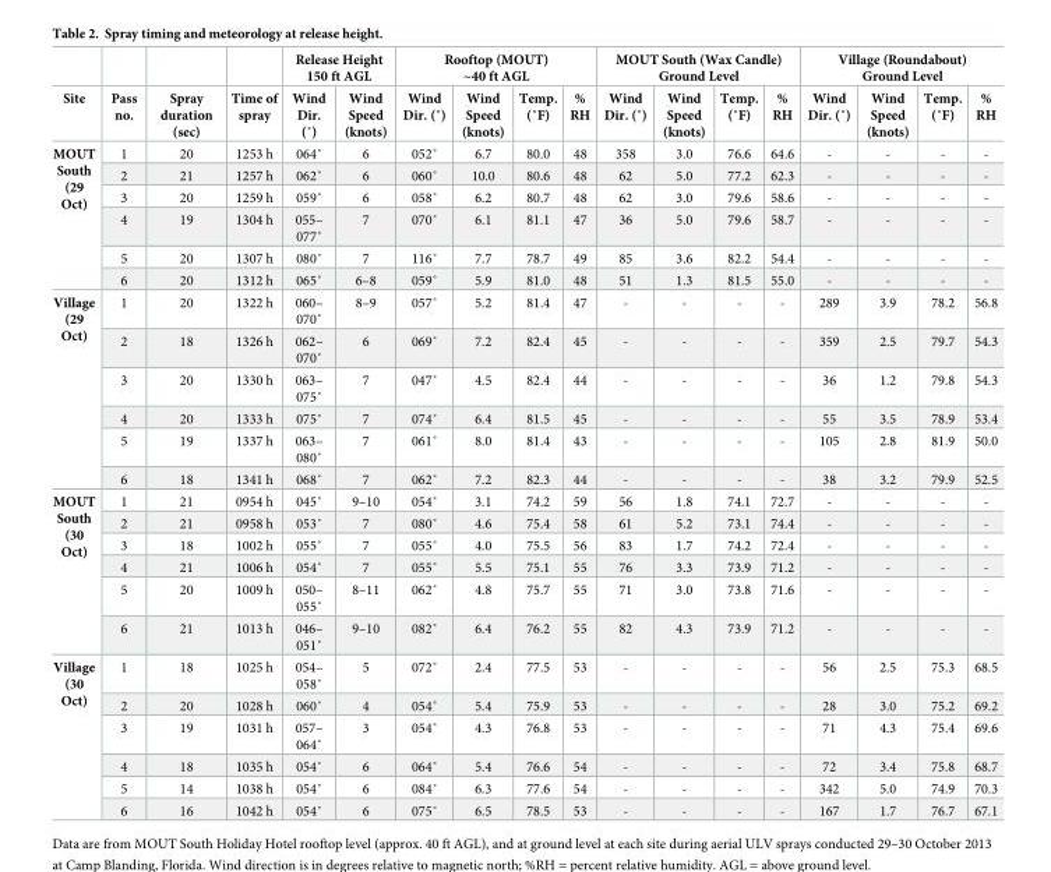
<table><thead><tr><td rowspan="2">Site</td><td rowspan="2">Pass no.</td><td rowspan="2">Spray duration (sec)</td><td rowspan="2">Time of spray</td><td colspan="2">Release Height 150 ft AGL</td><td colspan="4">Rooftop (MOUT) ~40 ft AGL</td><td colspan="4">MOUT South (Wax Candle) Ground Level</td><td colspan="4">Village (Roundabout) Ground Level</td></tr><tr><td>Wind Dir. (˚)</td><td>Wind Speed (knots)</td><td>Wind Dir. (˚)</td><td>Wind Speed (knots)</td><td>Temp. (˚F)</td><td>% RH</td><td>Wind Dir. (˚)</td><td>Wind Speed (knots)</td><td>Temp. (˚F)</td><td>% RH</td><td>Wind Dir. (˚)</td><td>Wind Speed (knots)</td><td>Temp. (˚F)</td><td>% RH</td></tr></thead><tbody><tr><td rowspan="6">MOUT South (29 Oct)</td><td>1</td><td>20</td><td>1253 h</td><td>064˚</td><td>6</td><td>052˚</td><td>6.7</td><td>80.0</td><td>48</td><td>358</td><td>3.0</td><td>76.6</td><td>64.6</td><td>-</td><td>-</td><td>-</td><td>-</td></tr><tr><td>2</td><td>21</td><td>1257 h</td><td>062˚</td><td>6</td><td>060˚</td><td>10.0</td><td>80.6</td><td>48</td><td>62</td><td>5.0</td><td>77.2</td><td>62.3</td><td>-</td><td>-</td><td>-</td><td>-</td></tr><tr><td>3</td><td>20</td><td>1259 h</td><td>059˚</td><td>6</td><td>058˚</td><td>6.2</td><td>80.7</td><td>48</td><td>62</td><td>3.0</td><td>79.6</td><td>58.6</td><td>-</td><td>-</td><td>-</td><td>-</td></tr><tr><td>4</td><td>19</td><td>1304 h</td><td>055– 077˚</td><td>7</td><td>070˚</td><td>6.1</td><td>81.1</td><td>47</td><td>36</td><td>5.0</td><td>79.6</td><td>58.7</td><td>-</td><td>-</td><td>-</td><td>-</td></tr><tr><td>5</td><td>20</td><td>1307 h</td><td>080˚</td><td>7</td><td>116˚</td><td>7.7</td><td>78.7</td><td>49</td><td>85</td><td>3.6</td><td>82.2</td><td>54.4</td><td>-</td><td>-</td><td>-</td><td>-</td></tr><tr><td>6</td><td>20</td><td>1312 h</td><td>065˚</td><td>6–8</td><td>059˚</td><td>5.9</td><td>81.0</td><td>48</td><td>51</td><td>1.3</td><td>81.5</td><td>55.0</td><td>-</td><td>-</td><td>-</td><td>-</td></tr><tr><td rowspan="6">Village (29 Oct)</td><td>1</td><td>20</td><td>1322 h</td><td>060– 070˚</td><td>8–9</td><td>057˚</td><td>5.2</td><td>81.4</td><td>47</td><td>-</td><td>-</td><td>-</td><td>-</td><td>289</td><td>3.9</td><td>78.2</td><td>56.8</td></tr><tr><td>2</td><td>18</td><td>1326 h</td><td>062– 070˚</td><td>6</td><td>069˚</td><td>7.2</td><td>82.4</td><td>45</td><td>-</td><td>-</td><td>-</td><td>-</td><td>359</td><td>2.5</td><td>79.7</td><td>54.3</td></tr><tr><td>3</td><td>20</td><td>1330 h</td><td>063– 075˚</td><td>7</td><td>047˚</td><td>4.5</td><td>82.4</td><td>44</td><td>-</td><td>-</td><td>-</td><td>-</td><td>36</td><td>1.2</td><td>79.8</td><td>54.3</td></tr><tr><td>4</td><td>20</td><td>1333 h</td><td>075˚</td><td>7</td><td>074˚</td><td>6.4</td><td>81.5</td><td>45</td><td>-</td><td>-</td><td>-</td><td>-</td><td>55</td><td>3.5</td><td>78.9</td><td>53.4</td></tr><tr><td>5</td><td>19</td><td>1337 h</td><td>063– 080˚</td><td>7</td><td>061˚</td><td>8.0</td><td>81.4</td><td>43</td><td>-</td><td>-</td><td>-</td><td>-</td><td>105</td><td>2.8</td><td>81.9</td><td>50.0</td></tr><tr><td>6</td><td>18</td><td>1341 h</td><td>068˚</td><td>7</td><td>062˚</td><td>7.2</td><td>82.3</td><td>44</td><td>-</td><td>-</td><td>-</td><td>-</td><td>38</td><td>3.2</td><td>79.9</td><td>52.5</td></tr><tr><td rowspan="6">MOUT South (30 Oct)</td><td>1</td><td>21</td><td>0954 h</td><td>045˚</td><td>9–10</td><td>054˚</td><td>3.1</td><td>74.2</td><td>59</td><td>56</td><td>1.8</td><td>74.1</td><td>72.7</td><td>-</td><td>-</td><td>-</td><td>-</td></tr><tr><td>2</td><td>21</td><td>0958 h</td><td>053˚</td><td>7</td><td>080˚</td><td>4.6</td><td>75.4</td><td>58</td><td>61</td><td>5.2</td><td>73.1</td><td>74.4</td><td>-</td><td>-</td><td>-</td><td>-</td></tr><tr><td>3</td><td>18</td><td>1002 h</td><td>055˚</td><td>7</td><td>055˚</td><td>4.0</td><td>75.5</td><td>56</td><td>83</td><td>1.7</td><td>74.2</td><td>72.4</td><td>-</td><td>-</td><td>-</td><td>-</td></tr><tr><td>4</td><td>21</td><td>1006 h</td><td>054˚</td><td>7</td><td>055˚</td><td>5.5</td><td>75.1</td><td>55</td><td>76</td><td>3.3</td><td>73.9</td><td>71.2</td><td>-</td><td>-</td><td>-</td><td>-</td></tr><tr><td>5</td><td>20</td><td>1009 h</td><td>050– 055˚</td><td>8–11</td><td>062˚</td><td>4.8</td><td>75.7</td><td>55</td><td>71</td><td>3.0</td><td>73.8</td><td>71.6</td><td>-</td><td>-</td><td>-</td><td>-</td></tr><tr><td>6</td><td>21</td><td>1013 h</td><td>046– 051˚</td><td>9–10</td><td>082˚</td><td>6.4</td><td>76.2</td><td>55</td><td>82</td><td>4.3</td><td>73.9</td><td>71.2</td><td>-</td><td>-</td><td>-</td><td>-</td></tr><tr><td rowspan="6">Village (30 Oct)</td><td>1</td><td>18</td><td>1025 h</td><td>054– 058˚</td><td>5</td><td>072˚</td><td>2.4</td><td>77.5</td><td>53</td><td>-</td><td>-</td><td>-</td><td>-</td><td>56</td><td>2.5</td><td>75.3</td><td>68.5</td></tr><tr><td>2</td><td>20</td><td>1028 h</td><td>060˚</td><td>4</td><td>054˚</td><td>5.4</td><td>75.9</td><td>53</td><td>-</td><td>-</td><td>-</td><td>-</td><td>28</td><td>3.0</td><td>75.2</td><td>69.2</td></tr><tr><td>3</td><td>19</td><td>1031 h</td><td>057– 064˚</td><td>3</td><td>054˚</td><td>4.3</td><td>76.8</td><td>53</td><td>-</td><td>-</td><td>-</td><td>-</td><td>71</td><td>4.3</td><td>75.4</td><td>69.6</td></tr><tr><td>4</td><td>18</td><td>1035 h</td><td>054˚</td><td>6</td><td>064˚</td><td>5.4</td><td>76.6</td><td>54</td><td>-</td><td>-</td><td>-</td><td>-</td><td>72</td><td>3.4</td><td>75.8</td><td>68.7</td></tr><tr><td>5</td><td>14</td><td>1038 h</td><td>054˚</td><td>6</td><td>084˚</td><td>6.3</td><td>77.6</td><td>54</td><td>-</td><td>-</td><td>-</td><td>-</td><td>342</td><td>5.0</td><td>74.9</td><td>70.3</td></tr><tr><td>6</td><td>16</td><td>1042 h</td><td>054˚</td><td>6</td><td>075˚</td><td>6.5</td><td>78.5</td><td>53</td><td>-</td><td>-</td><td>-</td><td>-</td><td>167</td><td>1.7</td><td>76.7</td><td>67.1</td></tr></tbody></table>